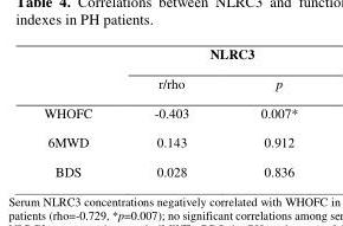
<table><thead><tr><td rowspan="2"></td><td colspan="2">NLRC3</td></tr><tr><td>r/rho</td><td>p</td></tr></thead><tbody><tr><td>WHOFC</td><td>-0.403</td><td>0.007*</td></tr><tr><td>6MWD</td><td>0.143</td><td>0.912</td></tr><tr><td>BDS</td><td>0.028</td><td>0.836</td></tr></tbody></table>